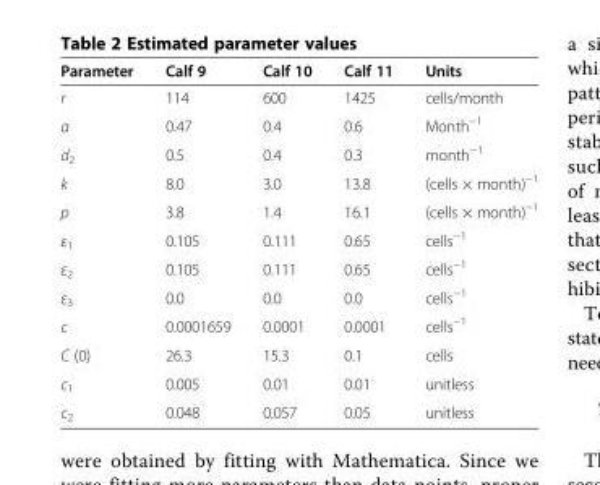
<table><thead><tr><td>Parameter</td><td>Calf 9</td><td>Calf 10</td><td>Calf 11</td><td>Units</td></tr></thead><tbody><tr><td>r</td><td>114</td><td>600</td><td>1425</td><td>cells/month</td></tr><tr><td>α</td><td>0.47</td><td>0.4</td><td>0.6</td><td>Month<sup>−1</sup></td></tr><tr><td>d<sub>2</sub></td><td>0.5</td><td>0.4</td><td>0.3</td><td>month<sup>−1</sup></td></tr><tr><td>k</td><td>8.0</td><td>3.0</td><td>13.8</td><td>(cells × month)<sup>−1</sup></td></tr><tr><td>p</td><td>3.8</td><td>1.4</td><td>16.1</td><td>(cells × month)<sup>−1</sup></td></tr><tr><td>ε<sub>1</sub></td><td>0.105</td><td>0.111</td><td>0.65</td><td>cells<sup>−1</sup></td></tr><tr><td>ε<sub>2</sub></td><td>0.105</td><td>0.111</td><td>0.65</td><td>cells<sup>−1</sup></td></tr><tr><td>ε<sub>3</sub></td><td>0.0</td><td>0.0</td><td>0.0</td><td>cells<sup>−1</sup></td></tr><tr><td>c</td><td>0.0001659</td><td>0.0001</td><td>0.0001</td><td>cells<sup>−1</sup></td></tr><tr><td>C (0)</td><td>26.3</td><td>15.3</td><td>0.1</td><td>cells</td></tr><tr><td>c<sub>1</sub></td><td>0.005</td><td>0.01</td><td>0.01</td><td>unitless</td></tr><tr><td>c<sub>2</sub></td><td>0.048</td><td>0.057</td><td>0.05</td><td>unitless</td></tr></tbody></table>